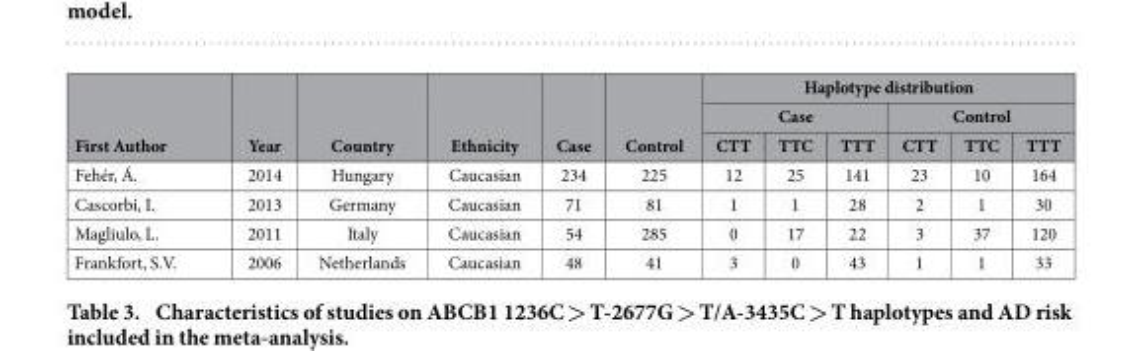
<table><thead><tr><td rowspan="3">First Author</td><td rowspan="3">Year</td><td rowspan="3">Country</td><td rowspan="3">Ethnicity</td><td rowspan="3">Case</td><td rowspan="3">Control</td><td colspan="6">Haplotype distribution</td></tr><tr><td colspan="3">Case</td><td colspan="3">Control</td></tr><tr><td>CTT</td><td>TTC</td><td>TTT</td><td>CTT</td><td>TTC</td><td>TTT</td></tr></thead><tbody><tr><td>Fehér, Á.</td><td>2014</td><td>Hungary</td><td>Caucasian</td><td>234</td><td>225</td><td>12</td><td>25</td><td>141</td><td>23</td><td>10</td><td>164</td></tr><tr><td>Cascorbi, I.</td><td>2013</td><td>Germany</td><td>Caucasian</td><td>71</td><td>81</td><td>1</td><td>1</td><td>28</td><td>2</td><td>1</td><td>30</td></tr><tr><td>Magliulo, L.</td><td>2011</td><td>Italy</td><td>Caucasian</td><td>54</td><td>285</td><td>0</td><td>17</td><td>22</td><td>3</td><td>37</td><td>120</td></tr><tr><td>Frankfort, S.V.</td><td>2006</td><td>Netherlands</td><td>Caucasian</td><td>48</td><td>41</td><td>3</td><td>0</td><td>43</td><td>1</td><td>1</td><td>33</td></tr></tbody></table>